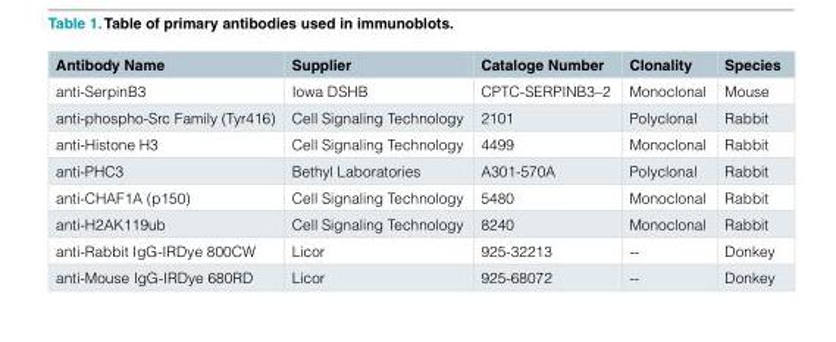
<table><thead><tr><td>Antibody Name</td><td>Supplier</td><td>Cataloge Number</td><td>Clonality</td><td>Species</td></tr></thead><tbody><tr><td>anti-SerpinB3</td><td>Iowa DSHB</td><td>CPTC-SERPINB3–2</td><td>Monoclonal</td><td>Mouse</td></tr><tr><td>anti-phospho-Src Family (Tyr416)</td><td>Cell Signaling Technology</td><td>2101</td><td>Polyclonal</td><td>Rabbit</td></tr><tr><td>anti-Histone H3</td><td>Cell Signaling Technology</td><td>4499</td><td>Monoclonal</td><td>Rabbit</td></tr><tr><td>anti-PHC3</td><td>Bethyl Laboratories</td><td>A301-570A</td><td>Polyclonal</td><td>Rabbit</td></tr><tr><td>anti-CHAF1A (p150)</td><td>Cell Signaling Technology</td><td>5480</td><td>Monoclonal</td><td>Rabbit</td></tr><tr><td>anti-H2AK119ub</td><td>Cell Signaling Technology</td><td>8240</td><td>Monoclonal</td><td>Rabbit</td></tr><tr><td>anti-Rabbit IgG-IRDye 800CW</td><td>Licor</td><td>925-32213</td><td>--</td><td>Donkey</td></tr><tr><td>anti-Mouse IgG-IRDye 680RD</td><td>Licor</td><td>925-68072</td><td>--</td><td>Donkey</td></tr></tbody></table>